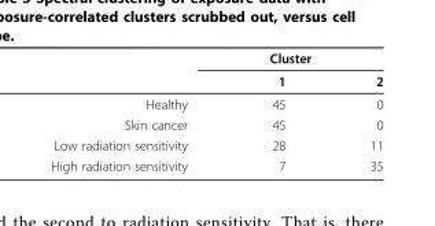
<table><thead><tr><td rowspan="2"></td><td colspan="2">Cluster</td></tr><tr><td>1</td><td>2</td></tr></thead><tbody><tr><td>Healthy</td><td>45</td><td>0</td></tr><tr><td>Skin cancer</td><td>45</td><td>0</td></tr><tr><td>Low radiation sensitivity</td><td>28</td><td>11</td></tr><tr><td>High radiation sensitivity</td><td>7</td><td>35</td></tr></tbody></table>